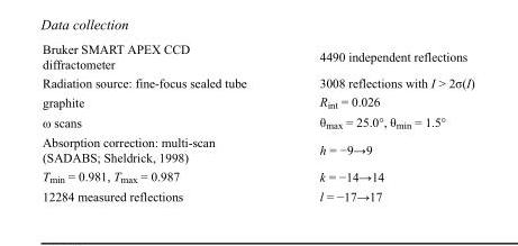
<table><tbody><tr><td>Bruker SMART APEX CCD diffractometer</td><td>4490 independent reflections</td></tr><tr><td>Radiation source: fine-focus sealed tube</td><td>3008 reflections with I &gt; 2σ(I)</td></tr><tr><td>graphite</td><td>R<sub>int</sub> = 0.026</td></tr><tr><td>ω scans</td><td>θ<sub>max</sub> = 25.0°, θ<sub>min</sub> = 1.5°</td></tr><tr><td>Absorption correction: multi-scan (SADABS; Sheldrick, 1998)</td><td>h = −9→9</td></tr><tr><td>T<sub>min</sub> = 0.981, T<sub>max</sub> = 0.987</td><td>k = −14→14</td></tr><tr><td>12284 measured reflections</td><td>l = −17→17</td></tr></tbody></table>